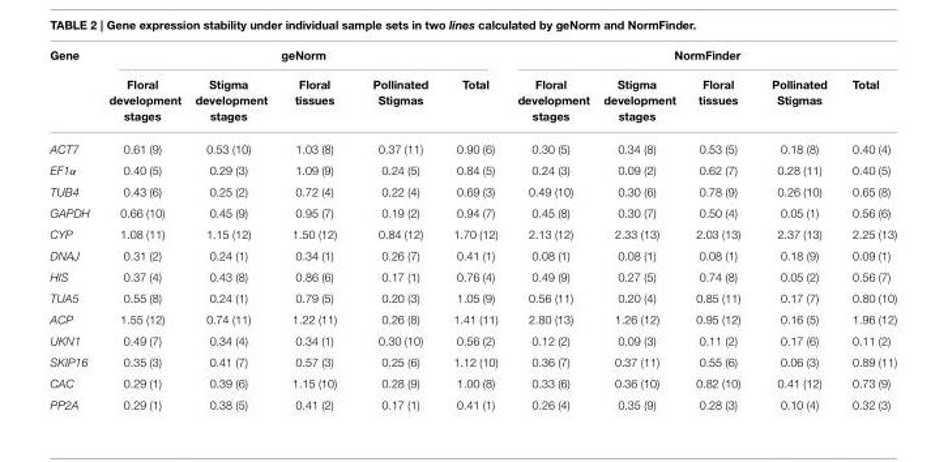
<table><thead><tr><td rowspan="2">Gene</td><td colspan="5">geNorm</td><td colspan="5">NormFinder</td></tr><tr><td>Floral development stages</td><td>Stigma development stages</td><td>Floral tissues</td><td>Pollinated Stigmas</td><td>Total</td><td>Floral development stages</td><td>Stigma development stages</td><td>Floral tissues</td><td>Pollinated Stigmas</td><td>Total</td></tr></thead><tbody><tr><td>ACT7</td><td>0.61 (9)</td><td>0.53 (10)</td><td>1.03 (8)</td><td>0.37 (11)</td><td>0.90 (6)</td><td>0.30 (5)</td><td>0.34 (8)</td><td>0.53 (5)</td><td>0.18 (8)</td><td>0.40 (4)</td></tr><tr><td>EF1α</td><td>0.40 (5)</td><td>0.29 (3)</td><td>1.09 (9)</td><td>0.24 (5)</td><td>0.84 (5)</td><td>0.24 (3)</td><td>0.09 (2)</td><td>0.62 (7)</td><td>0.28 (11)</td><td>0.40 (5)</td></tr><tr><td>TUB4</td><td>0.43 (6)</td><td>0.25 (2)</td><td>0.72 (4)</td><td>0.22 (4)</td><td>0.69 (3)</td><td>0.49 (10)</td><td>0.30 (6)</td><td>0.78 (9)</td><td>0.26 (10)</td><td>0.65 (8)</td></tr><tr><td>GAPDH</td><td>0.66 (10)</td><td>0.45 (9)</td><td>0.95 (7)</td><td>0.19 (2)</td><td>0.94 (7)</td><td>0.45 (8)</td><td>0.30 (7)</td><td>0.50 (4)</td><td>0.05 (1)</td><td>0.56 (6)</td></tr><tr><td>CYP</td><td>1.08 (11)</td><td>1.15 (12)</td><td>1.50 (12)</td><td>0.84 (12)</td><td>1.70 (12)</td><td>2.13 (12)</td><td>2.33 (13)</td><td>2.03 (13)</td><td>2.37 (13)</td><td>2.25 (13)</td></tr><tr><td>DNAJ</td><td>0.31 (2)</td><td>0.24 (1)</td><td>0.34 (1)</td><td>0.26 (7)</td><td>0.41 (1)</td><td>0.08 (1)</td><td>0.08 (1)</td><td>0.08 (1)</td><td>0.18 (9)</td><td>0.09 (1)</td></tr><tr><td>HIS</td><td>0.37 (4)</td><td>0.43 (8)</td><td>0.86 (6)</td><td>0.17 (1)</td><td>0.76 (4)</td><td>0.49 (9)</td><td>0.27 (5)</td><td>0.74 (8)</td><td>0.05 (2)</td><td>0.56 (7)</td></tr><tr><td>TUA5</td><td>0.55 (8)</td><td>0.24 (1)</td><td>0.79 (5)</td><td>0.20 (3)</td><td>1.05 (9)</td><td>0.56 (11)</td><td>0.20 (4)</td><td>0.85 (11)</td><td>0.17 (7)</td><td>0.80 (10)</td></tr><tr><td>ACP</td><td>1.55 (12)</td><td>0.74 (11)</td><td>1.22 (11)</td><td>0.26 (8)</td><td>1.41 (11)</td><td>2.80 (13)</td><td>1.26 (12)</td><td>0.95 (12)</td><td>0.16 (5)</td><td>1.96 (12)</td></tr><tr><td>UKN1</td><td>0.49 (7)</td><td>0.34 (4)</td><td>0.34 (1)</td><td>0.30 (10)</td><td>0.56 (2)</td><td>0.12 (2)</td><td>0.09 (3)</td><td>0.11 (2)</td><td>0.17 (6)</td><td>0.11 (2)</td></tr><tr><td>SKIP16</td><td>0.35 (3)</td><td>0.41 (7)</td><td>0.57 (3)</td><td>0.25 (6)</td><td>1.12 (10)</td><td>0.36 (7)</td><td>0.37 (11)</td><td>0.55 (6)</td><td>0.06 (3)</td><td>0.89 (11)</td></tr><tr><td>CAC</td><td>0.29 (1)</td><td>0.39 (6)</td><td>1.15 (10)</td><td>0.28 (9)</td><td>1.00 (8)</td><td>0.33 (6)</td><td>0.36 (10)</td><td>0.82 (10)</td><td>0.41 (12)</td><td>0.73 (9)</td></tr><tr><td>PP2A</td><td>0.29 (1)</td><td>0.38 (5)</td><td>0.41 (2)</td><td>0.17 (1)</td><td>0.41 (1)</td><td>0.26 (4)</td><td>0.35 (9)</td><td>0.28 (3)</td><td>0.10 (4)</td><td>0.32 (3)</td></tr></tbody></table>